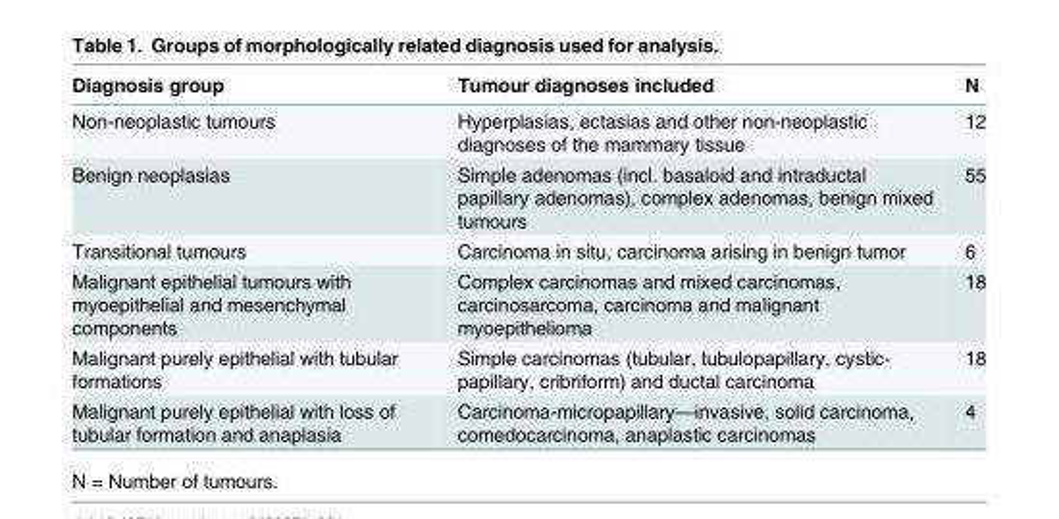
<table><thead><tr><td>Diagnosis group</td><td>Tumour diagnoses included</td><td>N</td></tr></thead><tbody><tr><td>Non-neoplastic tumours</td><td>Hyperplasias, ectasias and other non-neoplastic diagnoses of the mammary tissue</td><td>12</td></tr><tr><td>Benign neoplasias</td><td>Simple adenomas (incl. basaloid and intraductal papillary adenomas), complex adenomas, benign mixed tumours</td><td>55</td></tr><tr><td>Transitional tumours</td><td>Carcinoma in situ, carcinoma arising in benign tumor</td><td>6</td></tr><tr><td>Malignant epithelial tumours with myoepithelial and mesenchymal components</td><td>Complex carcinomas and mixed carcinomas, carcinosarcoma, carcinoma and malignant myoepithelioma</td><td>18</td></tr><tr><td>Malignant purely epithelial with tubular formations</td><td>Simple carcinomas (tubular, tubulopapillary, cystic- papillary, cribriform) and ductal carcinoma</td><td>18</td></tr><tr><td>Malignant purely epithelial with loss of tubular formation and anaplasia</td><td>Carcinoma-micropapillary—invasive, solid carcinoma, comedocarcinoma, anaplastic carcinomas</td><td>4</td></tr></tbody></table>